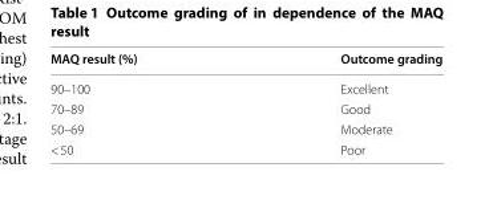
<table><thead><tr><td>MAQ result (%)</td><td>Outcome grading</td></tr></thead><tbody><tr><td>90–100</td><td>Excellent</td></tr><tr><td>70–89</td><td>Good</td></tr><tr><td>50–69</td><td>Moderate</td></tr><tr><td>&lt; 50</td><td>Poor</td></tr></tbody></table>